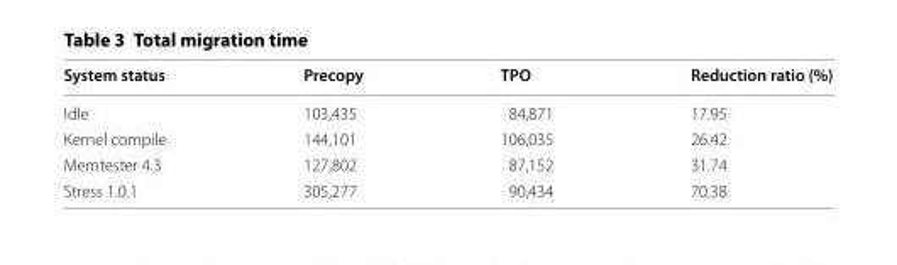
<table><thead><tr><td>System status</td><td>Precopy</td><td>TPO</td><td>Reduction ratio (%)</td></tr></thead><tbody><tr><td>Idle</td><td>103,435</td><td>84,871</td><td>17.95</td></tr><tr><td>Kernel compile</td><td>144,101</td><td>106,035</td><td>26.42</td></tr><tr><td>Memtester 4.3</td><td>127,802</td><td>87,152</td><td>31.74</td></tr><tr><td>Stress 1.0.1</td><td>305,277</td><td>90,434</td><td>70.38</td></tr></tbody></table>